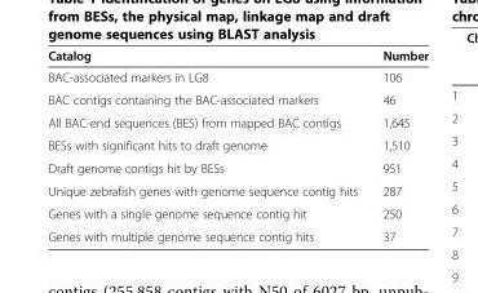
<table><thead><tr><td>Catalog</td><td>Number</td></tr></thead><tbody><tr><td>BAC-associated markers in LG8</td><td>106</td></tr><tr><td>BAC contigs containing the BAC-associated markers</td><td>46</td></tr><tr><td>All BAC-end sequences (BES) from mapped BAC contigs</td><td>1,645</td></tr><tr><td>BESs with significant hits to draft genome</td><td>1,510</td></tr><tr><td>Draft genome contigs hit by BESs</td><td>951</td></tr><tr><td>Unique zebrafish genes with genome sequence contig hits</td><td>287</td></tr><tr><td>Genes with a single genome sequence contig hit</td><td>250</td></tr><tr><td>Genes with multiple genome sequence contig hits</td><td>37</td></tr></tbody></table>